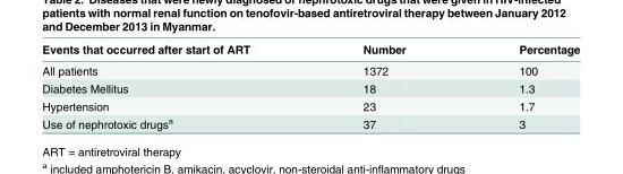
<table><thead><tr><td>Events that occurred after start of ART</td><td>Number</td><td>Percentage</td></tr></thead><tbody><tr><td>All patients</td><td>1372</td><td>100</td></tr><tr><td>Diabetes Mellitus</td><td>18</td><td>1.3</td></tr><tr><td>Hypertension</td><td>23</td><td>1.7</td></tr><tr><td>Use of nephrotoxic drugs<sup>a</sup></td><td>37</td><td>3</td></tr></tbody></table>